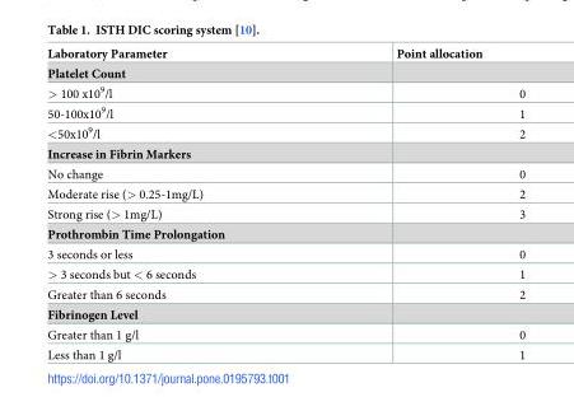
<table><thead><tr><td>Laboratory Parameter</td><td>Point allocation</td></tr></thead><tbody><tr><td colspan="2">Platelet Count</td></tr><tr><td>&gt; 100 x10<sup>9</sup>/l</td><td>0</td></tr><tr><td>50-100x10<sup>9</sup>/l</td><td>1</td></tr><tr><td>&lt;50x10<sup>9</sup>/l</td><td>2</td></tr><tr><td colspan="2">Increase in Fibrin Markers</td></tr><tr><td>No change</td><td>0</td></tr><tr><td>Moderate rise (&gt; 0.25-1mg/L)</td><td>2</td></tr><tr><td>Strong rise (&gt; 1mg/L)</td><td>3</td></tr><tr><td colspan="2">Prothrombin Time Prolongation</td></tr><tr><td>3 seconds or less</td><td>0</td></tr><tr><td>&gt; 3 seconds but &lt; 6 seconds</td><td>1</td></tr><tr><td>Greater than 6 seconds</td><td>2</td></tr><tr><td colspan="2">Fibrinogen Level</td></tr><tr><td>Greater than 1 g/l</td><td>0</td></tr><tr><td>Less than 1 g/l</td><td>1</td></tr></tbody></table>